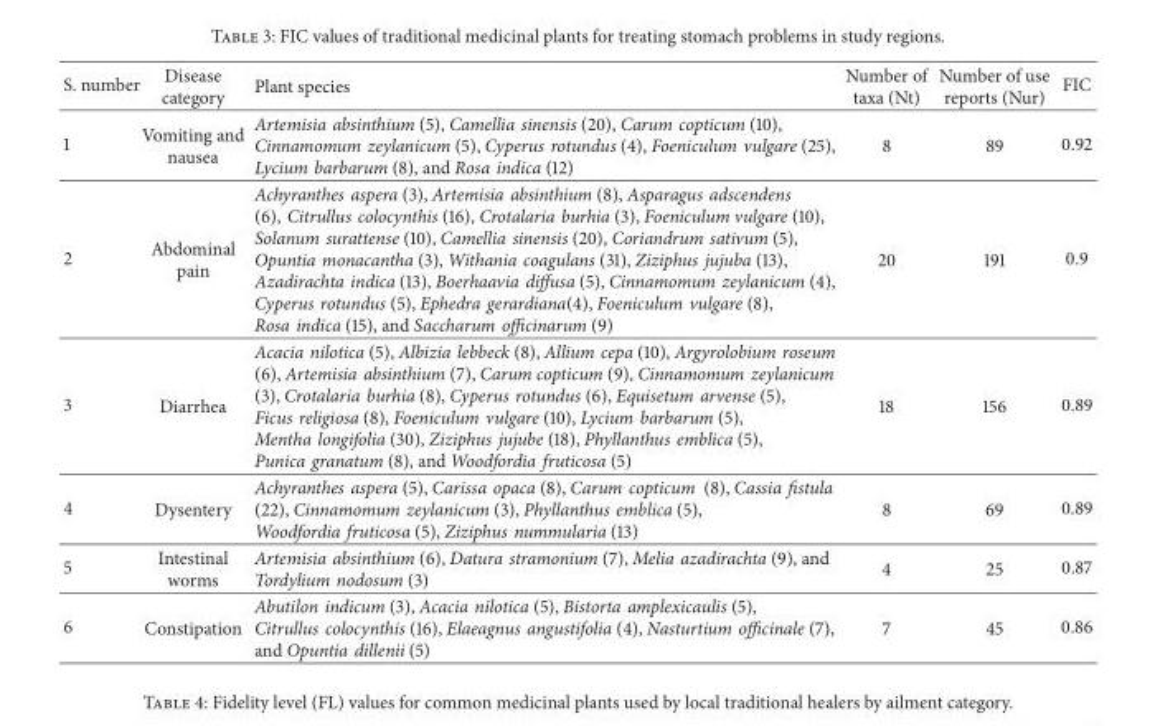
<table><thead><tr><td>S. number</td><td>Disease category</td><td>Plant species</td><td>Number of taxa (Nt)</td><td>Number of use reports (Nur)</td><td>FIC</td></tr></thead><tbody><tr><td>1</td><td>Vomiting and nausea</td><td>Artemisia absinthium (5), Camellia sinensis (20), Carum copticum (10), Cinnamomum zeylanicum (5), Cyperus rotundus (4), Foeniculum vulgare (25), Lycium barbarum (8), and Rosa indica (12)</td><td>8</td><td>89</td><td>0.92</td></tr><tr><td>2</td><td>Abdominal pain</td><td>Achyranthes aspera (3), Artemisia absinthium (8), Asparagus adscendens (6), Citrullus colocynthis (16), Crotalaria burhia (3), Foeniculum vulgare (10), Solanum surattense (10), Camellia sinensis (20), Coriandrum sativum (5), Opuntia monacantha (3), Withania coagulans (31), Ziziphus jujuba (13), Azadirachta indica (13), Boerhaavia diffusa (5), Cinnamomum zeylanicum (4), Cyperus rotundus (5), Ephedra gerardiana(4), Foeniculum vulgare (8), Rosa indica (15), and Saccharum officinarum (9)</td><td>20</td><td>191</td><td>0.9</td></tr><tr><td>3</td><td>Diarrhea</td><td>Acacia nilotica (5), Albizia lebbeck (8), Allium cepa (10), Argyrolobium roseum (6), Artemisia absinthium (7), Carum copticum (9), Cinnamomum zeylanicum (3), Crotalaria burhia (8), Cyperus rotundus (6), Equisetum arvense (5), Ficus religiosa (8), Foeniculum vulgare (10), Lycium barbarum (5), Mentha longifolia (30), Ziziphus jujube (18), Phyllanthus emblica (5), Punica granatum (8), and Woodfordia fruticosa (5)</td><td>18</td><td>156</td><td>0.89</td></tr><tr><td>4</td><td>Dysentery</td><td>Achyranthes aspera (5), Carissa opaca (8), Carum copticum (8), Cassia fistula (22), Cinnamomum zeylanicum (3), Phyllanthus emblica (5), Woodfordia fruticosa (5), Ziziphus nummularia (13)</td><td>8</td><td>69</td><td>0.89</td></tr><tr><td>5</td><td>Intestinal worms</td><td>Artemisia absinthium (6), Datura stramonium (7), Melia azadirachta (9), and Tordylium nodosum (3)</td><td>4</td><td>25</td><td>0.87</td></tr><tr><td>6</td><td>Constipation</td><td>Abutilon indicum (3), Acacia nilotica (5), Bistorta amplexicaulis (5), Citrullus colocynthis (16), Elaeagnus angustifolia (4), Nasturtium officinale (7), and Opuntia dillenii (5)</td><td>7</td><td>45</td><td>0.86</td></tr></tbody></table>